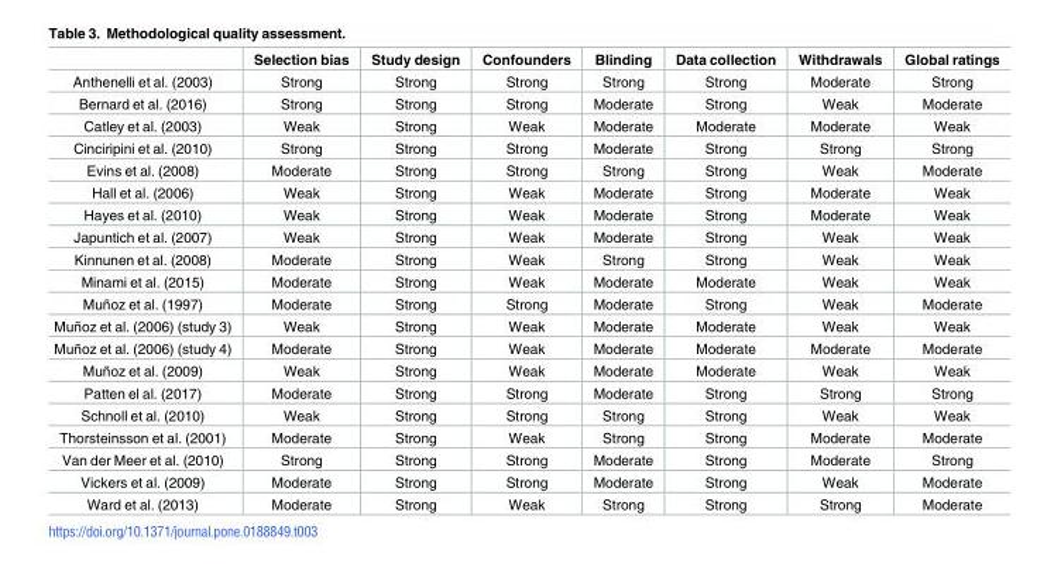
<table><thead><tr><td></td><td>Selection bias</td><td>Study design</td><td>Confounders</td><td>Blinding</td><td>Data collection</td><td>Withdrawals</td><td>Global ratings</td></tr></thead><tbody><tr><td>Anthenelli et al. (2003)</td><td>Strong</td><td>Strong</td><td>Strong</td><td>Strong</td><td>Strong</td><td>Moderate</td><td>Strong</td></tr><tr><td>Bernard et al. (2016)</td><td>Strong</td><td>Strong</td><td>Strong</td><td>Moderate</td><td>Strong</td><td>Weak</td><td>Moderate</td></tr><tr><td>Catley et al. (2003)</td><td>Weak</td><td>Strong</td><td>Weak</td><td>Moderate</td><td>Moderate</td><td>Moderate</td><td>Weak</td></tr><tr><td>Cinciripini et al. (2010)</td><td>Strong</td><td>Strong</td><td>Strong</td><td>Moderate</td><td>Strong</td><td>Strong</td><td>Strong</td></tr><tr><td>Evins et al. (2008)</td><td>Moderate</td><td>Strong</td><td>Strong</td><td>Strong</td><td>Strong</td><td>Weak</td><td>Moderate</td></tr><tr><td>Hall et al. (2006)</td><td>Weak</td><td>Strong</td><td>Weak</td><td>Moderate</td><td>Strong</td><td>Moderate</td><td>Weak</td></tr><tr><td>Hayes et al. (2010)</td><td>Weak</td><td>Strong</td><td>Weak</td><td>Moderate</td><td>Strong</td><td>Moderate</td><td>Weak</td></tr><tr><td>Japuntich et al. (2007)</td><td>Weak</td><td>Strong</td><td>Weak</td><td>Moderate</td><td>Strong</td><td>Weak</td><td>Weak</td></tr><tr><td>Kinnunen et al. (2008)</td><td>Moderate</td><td>Strong</td><td>Weak</td><td>Strong</td><td>Strong</td><td>Weak</td><td>Weak</td></tr><tr><td>Minami et al. (2015)</td><td>Moderate</td><td>Strong</td><td>Weak</td><td>Moderate</td><td>Moderate</td><td>Weak</td><td>Weak</td></tr><tr><td>Muñoz et al. (1997)</td><td>Moderate</td><td>Strong</td><td>Strong</td><td>Moderate</td><td>Strong</td><td>Weak</td><td>Moderate</td></tr><tr><td>Muñoz et al. (2006) (study 3)</td><td>Weak</td><td>Strong</td><td>Weak</td><td>Moderate</td><td>Moderate</td><td>Weak</td><td>Weak</td></tr><tr><td>Muñoz et al. (2006) (study 4)</td><td>Moderate</td><td>Strong</td><td>Weak</td><td>Moderate</td><td>Moderate</td><td>Moderate</td><td>Moderate</td></tr><tr><td>Muñoz et al. (2009)</td><td>Weak</td><td>Strong</td><td>Weak</td><td>Moderate</td><td>Moderate</td><td>Weak</td><td>Weak</td></tr><tr><td>Patten el al. (2017)</td><td>Moderate</td><td>Strong</td><td>Strong</td><td>Moderate</td><td>Strong</td><td>Strong</td><td>Strong</td></tr><tr><td>Schnoll et al. (2010)</td><td>Weak</td><td>Strong</td><td>Strong</td><td>Strong</td><td>Strong</td><td>Weak</td><td>Weak</td></tr><tr><td>Thorsteinsson et al. (2001)</td><td>Moderate</td><td>Strong</td><td>Weak</td><td>Strong</td><td>Strong</td><td>Moderate</td><td>Moderate</td></tr><tr><td>Van der Meer et al. (2010)</td><td>Strong</td><td>Strong</td><td>Strong</td><td>Moderate</td><td>Strong</td><td>Moderate</td><td>Strong</td></tr><tr><td>Vickers et al. (2009)</td><td>Moderate</td><td>Strong</td><td>Strong</td><td>Moderate</td><td>Strong</td><td>Weak</td><td>Moderate</td></tr><tr><td>Ward et al. (2013)</td><td>Moderate</td><td>Strong</td><td>Weak</td><td>Strong</td><td>Strong</td><td>Strong</td><td>Moderate</td></tr></tbody></table>